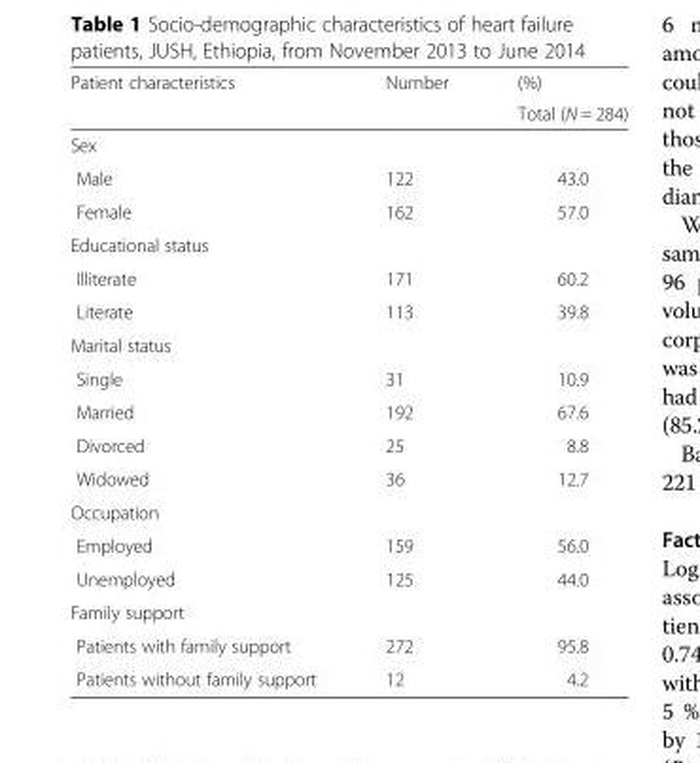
<table><thead><tr><td rowspan="2">Patient characteristics</td><td rowspan="2">Number</td><td rowspan="2">(%) Total (N = 284)</td></tr><tr></tr></thead><tbody><tr><td colspan="3">Sex</td></tr><tr><td>Male</td><td>122</td><td>43.0</td></tr><tr><td>Female</td><td>162</td><td>57.0</td></tr><tr><td colspan="3">Educational status</td></tr><tr><td>Illiterate</td><td>171</td><td>60.2</td></tr><tr><td>Literate</td><td>113</td><td>39.8</td></tr><tr><td colspan="3">Marital status</td></tr><tr><td>Single</td><td>31</td><td>10.9</td></tr><tr><td>Married</td><td>192</td><td>67.6</td></tr><tr><td>Divorced</td><td>25</td><td>8.8</td></tr><tr><td>Widowed</td><td>36</td><td>12.7</td></tr><tr><td colspan="3">Occupation</td></tr><tr><td>Employed</td><td>159</td><td>56.0</td></tr><tr><td>Unemployed</td><td>125</td><td>44.0</td></tr><tr><td colspan="3">Family support</td></tr><tr><td>Patients with family support</td><td>272</td><td>95.8</td></tr><tr><td>Patients without family support</td><td>12</td><td>4.2</td></tr></tbody></table>